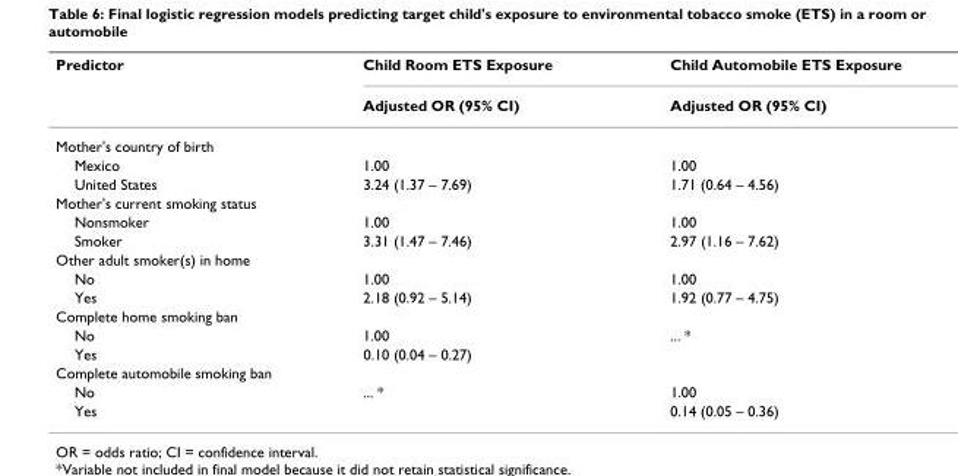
<table><thead><tr><td rowspan="2">Predictor</td><td rowspan="2">Child Room ETS Exposure Adjusted OR (95% CI)</td><td rowspan="2">Child Automobile ETS Exposure Adjusted OR (95% CI)</td></tr><tr></tr></thead><tbody><tr><td colspan="3">Mother&#x27;s country of birth</td></tr><tr><td>Mexico</td><td>1.00</td><td>1.00</td></tr><tr><td>United States</td><td>3.24 (1.37 – 7.69)</td><td>1.71 (0.64 – 4.56)</td></tr><tr><td colspan="3">Mother&#x27;s current smoking status</td></tr><tr><td>Nonsmoker</td><td>1.00</td><td>1.00</td></tr><tr><td>Smoker</td><td>3.31 (1.47 – 7.46)</td><td>2.97 (1.16 – 7.62)</td></tr><tr><td colspan="3">Other adult smoker(s) in home</td></tr><tr><td>No</td><td>1.00</td><td>1.00</td></tr><tr><td>Yes</td><td>2.18 (0.92 – 5.14)</td><td>1.92 (0.77 – 4.75)</td></tr><tr><td colspan="3">Complete home smoking ban</td></tr><tr><td>No</td><td>1.00</td><td>... *</td></tr><tr><td>Yes</td><td>0.10 (0.04 – 0.27)</td><td></td></tr><tr><td colspan="3">Complete automobile smoking ban</td></tr><tr><td>No</td><td>... *</td><td>1.00</td></tr><tr><td>Yes</td><td></td><td>0.14 (0.05 – 0.36)</td></tr></tbody></table>